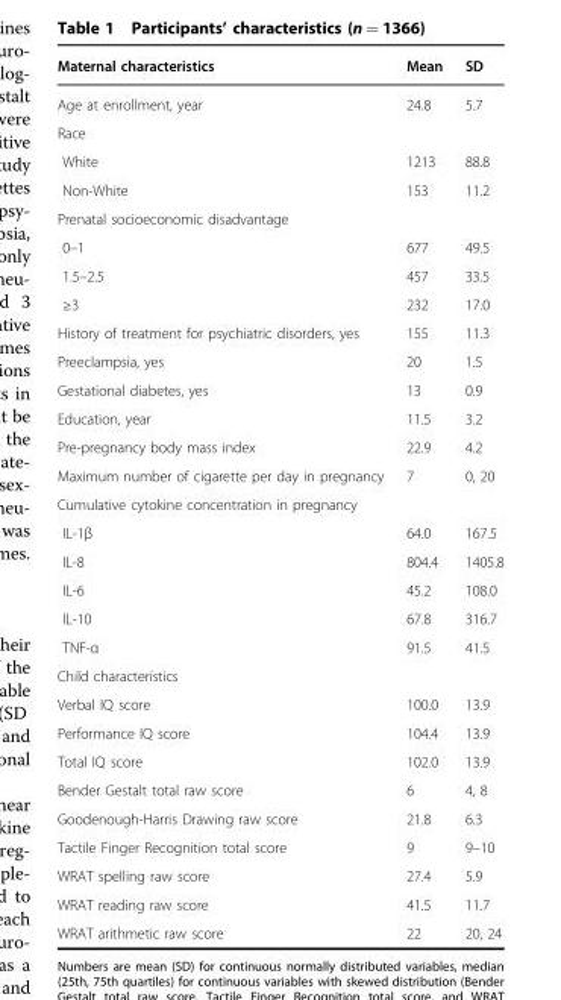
<table><thead><tr><td>Maternal characteristics</td><td>Mean</td><td>SD</td></tr></thead><tbody><tr><td>Age at enrollment, year</td><td>24.8</td><td>5.7</td></tr><tr><td colspan="3">Race</td></tr><tr><td>White</td><td>1213</td><td>88.8</td></tr><tr><td>Non-White</td><td>153</td><td>11.2</td></tr><tr><td colspan="3">Prenatal socioeconomic disadvantage</td></tr><tr><td>0–1</td><td>677</td><td>49.5</td></tr><tr><td>1.5–2.5</td><td>457</td><td>33.5</td></tr><tr><td>≥3</td><td>232</td><td>17.0</td></tr><tr><td>History of treatment for psychiatric disorders, yes</td><td>155</td><td>11.3</td></tr><tr><td>Preeclampsia, yes</td><td>20</td><td>1.5</td></tr><tr><td>Gestational diabetes, yes</td><td>13</td><td>0.9</td></tr><tr><td>Education, year</td><td>11.5</td><td>3.2</td></tr><tr><td>Pre-pregnancy body mass index</td><td>22.9</td><td>4.2</td></tr><tr><td>Maximum number of cigarette per day in pregnancy</td><td>7</td><td>0, 20</td></tr><tr><td colspan="3">Cumulative cytokine concentration in pregnancy</td></tr><tr><td>IL-1β</td><td>64.0</td><td>167.5</td></tr><tr><td>IL-8</td><td>804.4</td><td>1405.8</td></tr><tr><td>IL-6</td><td>45.2</td><td>108.0</td></tr><tr><td>IL-10</td><td>67.8</td><td>316.7</td></tr><tr><td>TNF-α</td><td>91.5</td><td>41.5</td></tr><tr><td colspan="3">Child characteristics</td></tr><tr><td>Verbal IQ score</td><td>100.0</td><td>13.9</td></tr><tr><td>Performance IQ score</td><td>104.4</td><td>13.9</td></tr><tr><td>Total IQ score</td><td>102.0</td><td>13.9</td></tr><tr><td>Bender Gestalt total raw score</td><td>6</td><td>4, 8</td></tr><tr><td>Goodenough-Harris Drawing raw score</td><td>21.8</td><td>6.3</td></tr><tr><td>Tactile Finger Recognition total score</td><td>9</td><td>9–10</td></tr><tr><td>WRAT spelling raw score</td><td>27.4</td><td>5.9</td></tr><tr><td>WRAT reading raw score</td><td>41.5</td><td>11.7</td></tr><tr><td>WRAT arithmetic raw score</td><td>22</td><td>20, 24</td></tr></tbody></table>